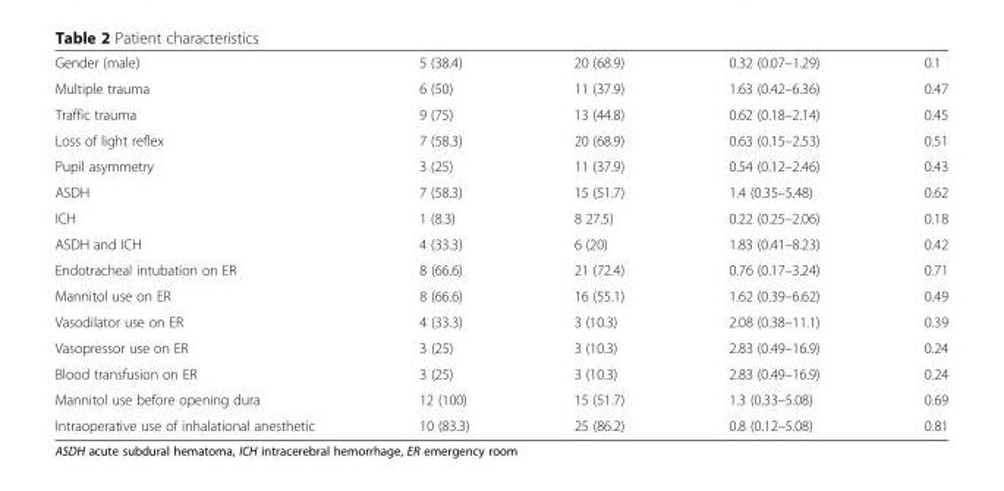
<table><tbody><tr><td>Gender (male)</td><td>5 (38.4)</td><td>20 (68.9)</td><td>0.32 (0.07–1.29)</td><td>0.1</td></tr><tr><td>Multiple trauma</td><td>6 (50)</td><td>11 (37.9)</td><td>1.63 (0.42–6.36)</td><td>0.47</td></tr><tr><td>Traffic trauma</td><td>9 (75)</td><td>13 (44.8)</td><td>0.62 (0.18–2.14)</td><td>0.45</td></tr><tr><td>Loss of light reflex</td><td>7 (58.3)</td><td>20 (68.9)</td><td>0.63 (0.15–2.53)</td><td>0.51</td></tr><tr><td>Pupil asymmetry</td><td>3 (25)</td><td>11 (37.9)</td><td>0.54 (0.12–2.46)</td><td>0.43</td></tr><tr><td>ASDH</td><td>7 (58.3)</td><td>15 (51.7)</td><td>1.4 (0.35–5.48)</td><td>0.62</td></tr><tr><td>ICH</td><td>1 (8.3)</td><td>8 27.5)</td><td>0.22 (0.25–2.06)</td><td>0.18</td></tr><tr><td>ASDH and ICH</td><td>4 (33.3)</td><td>6 (20)</td><td>1.83 (0.41–8.23)</td><td>0.42</td></tr><tr><td>Endotracheal intubation on ER</td><td>8 (66.6)</td><td>21 (72.4)</td><td>0.76 (0.17–3.24)</td><td>0.71</td></tr><tr><td>Mannitol use on ER</td><td>8 (66.6)</td><td>16 (55.1)</td><td>1.62 (0.39–6.62)</td><td>0.49</td></tr><tr><td>Vasodilator use on ER</td><td>4 (33.3)</td><td>3 (10.3)</td><td>2.08 (0.38–11.1)</td><td>0.39</td></tr><tr><td>Vasopressor use on ER</td><td>3 (25)</td><td>3 (10.3)</td><td>2.83 (0.49–16.9)</td><td>0.24</td></tr><tr><td>Blood transfusion on ER</td><td>3 (25)</td><td>3 (10.3)</td><td>2.83 (0.49–16.9)</td><td>0.24</td></tr><tr><td>Mannitol use before opening dura</td><td>12 (100)</td><td>15 (51.7)</td><td>1.3 (0.33–5.08)</td><td>0.69</td></tr><tr><td>Intraoperative use of inhalational anesthetic</td><td>10 (83.3)</td><td>25 (86.2)</td><td>0.8 (0.12–5.08)</td><td>0.81</td></tr></tbody></table>